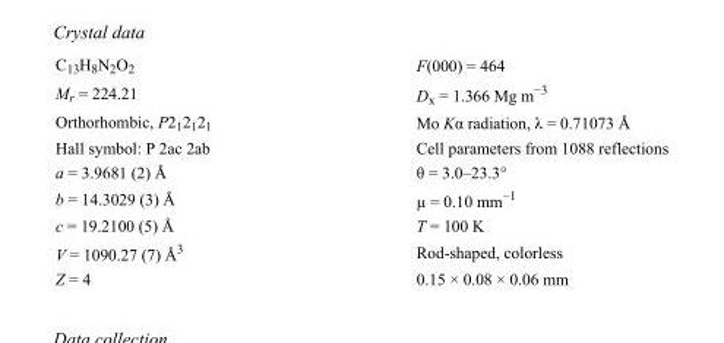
<table><tbody><tr><td>C<sub>13</sub>H<sub>8</sub>N<sub>2</sub>O<sub>2</sub></td><td>F(000) = 464</td></tr><tr><td>M<sub>r</sub> = 224.21</td><td>D<sub>x</sub> = 1.366 Mg m<sup>−3</sup></td></tr><tr><td>Orthorhombic, P2<sub>1</sub>2<sub>1</sub>2<sub>1</sub></td><td>Mo Kα radiation, λ = 0.71073 Å</td></tr><tr><td>Hall symbol: P 2ac 2ab</td><td>Cell parameters from 1088 reflections</td></tr><tr><td>a = 3.9681 (2) Å</td><td>θ = 3.0–23.3°</td></tr><tr><td>b = 14.3029 (3) Å</td><td>µ = 0.10 mm<sup>−1</sup></td></tr><tr><td>c = 19.2100 (5) Å</td><td>T = 100 K</td></tr><tr><td>V = 1090.27 (7) Å<sup>3</sup></td><td>Rod-shaped, colorless</td></tr><tr><td>Z = 4</td><td>0.15 × 0.08 × 0.06 mm</td></tr></tbody></table>